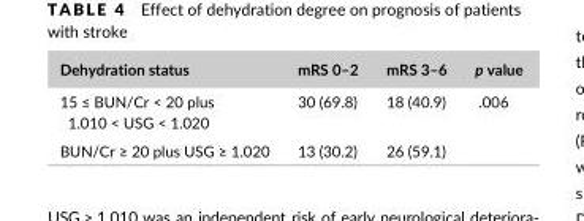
<table><thead><tr><td>Dehydration status</td><td>mRS 0–2</td><td>mRS 3–6</td><td>p value</td></tr></thead><tbody><tr><td>15 ≤ BUN/Cr &lt; 20 plus 1.010 &lt; USG &lt; 1.020</td><td>30 (69.8)</td><td>18 (40.9)</td><td rowspan="2">.006</td></tr><tr><td>BUN/Cr ≥ 20 plus USG ≥ 1.020</td><td>13 (30.2)</td><td>26 (59.1)</td></tr></tbody></table>